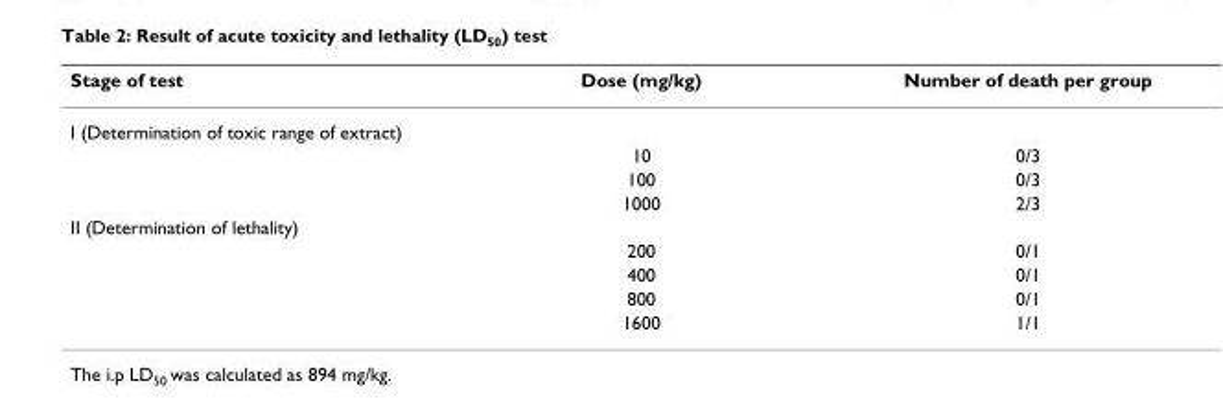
<table><thead><tr><td>Stage of test</td><td>Dose (mg/kg)</td><td>Number of death per group</td></tr></thead><tbody><tr><td colspan="3">I (Determination of toxic range of extract)</td></tr><tr><td></td><td>10</td><td>0/3</td></tr><tr><td></td><td>100</td><td>0/3</td></tr><tr><td></td><td>1000</td><td>2/3</td></tr><tr><td colspan="3">II (Determination of lethality)</td></tr><tr><td></td><td>200</td><td>0/1</td></tr><tr><td></td><td>400</td><td>0/1</td></tr><tr><td></td><td>800</td><td>0/1</td></tr><tr><td></td><td>1600</td><td>1/1</td></tr></tbody></table>